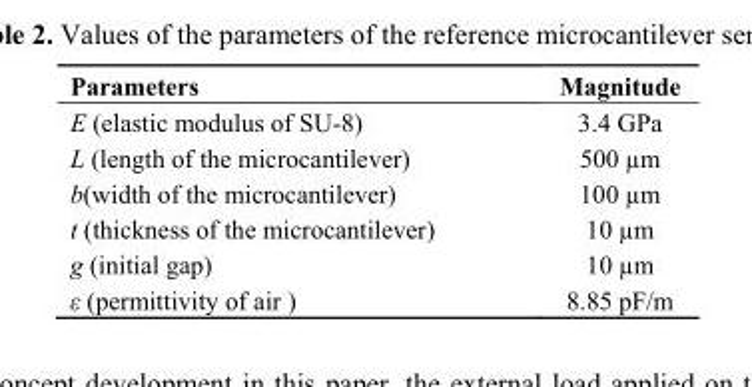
<table><thead><tr><td>Parameters</td><td>Magnitude</td></tr></thead><tbody><tr><td>E (elastic modulus of SU-8)</td><td>3.4 GPa</td></tr><tr><td>L (length of the microcantilever)</td><td>500 µm</td></tr><tr><td>b(width of the microcantilever)</td><td>100 µm</td></tr><tr><td>t (thickness of the microcantilever)</td><td>10 µm</td></tr><tr><td>g (initial gap)</td><td>10 µm</td></tr><tr><td>ε (permittivity of air )</td><td>8.85 pF/m</td></tr></tbody></table>